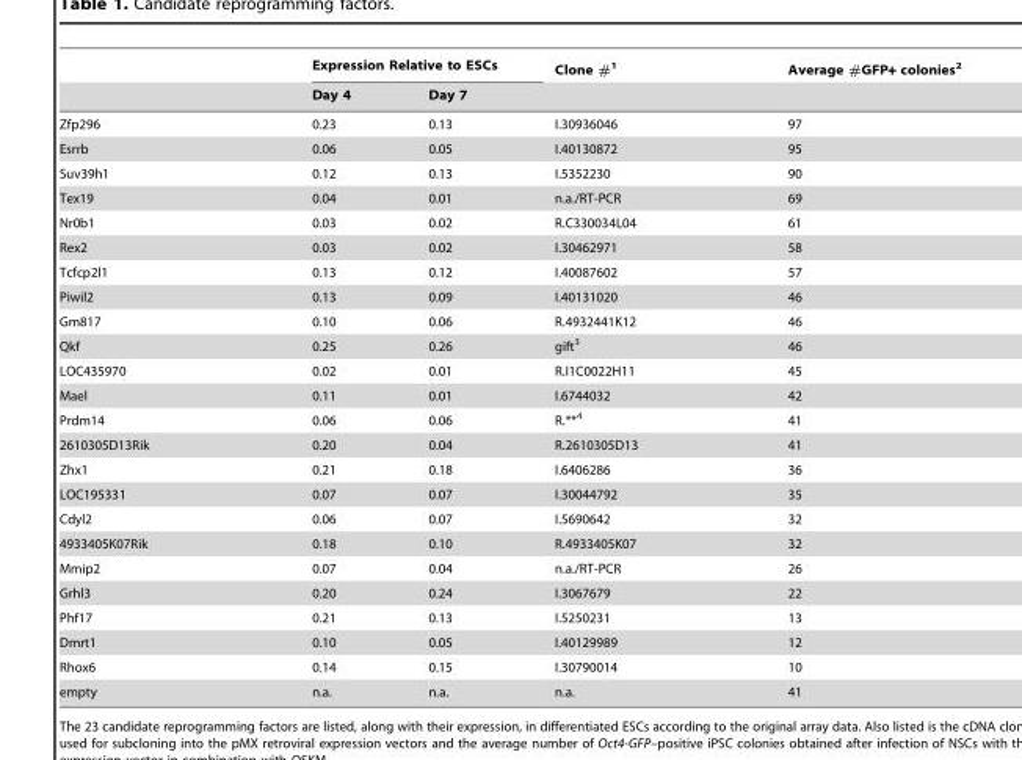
<table><thead><tr><td rowspan="2"></td><td colspan="2">Expression Relative to ESCs</td><td rowspan="2">Clone #<sup>1</sup></td><td rowspan="2">Average #GFP+ colonies<sup>2</sup></td></tr><tr><td>Day 4</td><td>Day 7</td></tr></thead><tbody><tr><td>Zfp296</td><td>0.23</td><td>0.13</td><td>I.30936046</td><td>97</td></tr><tr><td>Esrrb</td><td>0.06</td><td>0.05</td><td>I.40130872</td><td>95</td></tr><tr><td>Suv39h1</td><td>0.12</td><td>0.13</td><td>I.5352230</td><td>90</td></tr><tr><td>Tex19</td><td>0.04</td><td>0.01</td><td>n.a./RT-PCR</td><td>69</td></tr><tr><td>Nr0b1</td><td>0.03</td><td>0.02</td><td>R.C330034L04</td><td>61</td></tr><tr><td>Rex2</td><td>0.03</td><td>0.02</td><td>I.30462971</td><td>58</td></tr><tr><td>Tcfcp2l1</td><td>0.13</td><td>0.12</td><td>I.40087602</td><td>57</td></tr><tr><td>Piwil2</td><td>0.13</td><td>0.09</td><td>I.40131020</td><td>46</td></tr><tr><td>Gm817</td><td>0.10</td><td>0.06</td><td>R.4932441K12</td><td>46</td></tr><tr><td>Qkf</td><td>0.25</td><td>0.26</td><td>gift<sup>3</sup></td><td>46</td></tr><tr><td>LOC435970</td><td>0.02</td><td>0.01</td><td>R.I1C0022H11</td><td>45</td></tr><tr><td>Mael</td><td>0.11</td><td>0.01</td><td>I.6744032</td><td>42</td></tr><tr><td>Prdm14</td><td>0.06</td><td>0.06</td><td>R.**<sup>4</sup></td><td>41</td></tr><tr><td>2610305D13Rik</td><td>0.20</td><td>0.04</td><td>R.2610305D13</td><td>41</td></tr><tr><td>Zhx1</td><td>0.21</td><td>0.18</td><td>I.6406286</td><td>36</td></tr><tr><td>LOC195331</td><td>0.07</td><td>0.07</td><td>I.30044792</td><td>35</td></tr><tr><td>Cdyl2</td><td>0.06</td><td>0.07</td><td>I.5690642</td><td>32</td></tr><tr><td>4933405K07Rik</td><td>0.18</td><td>0.10</td><td>R.4933405K07</td><td>32</td></tr><tr><td>Mmip2</td><td>0.07</td><td>0.04</td><td>n.a./RT-PCR</td><td>26</td></tr><tr><td>Grhl3</td><td>0.20</td><td>0.24</td><td>I.3067679</td><td>22</td></tr><tr><td>Phf17</td><td>0.21</td><td>0.13</td><td>I.5250231</td><td>13</td></tr><tr><td>Dmrt1</td><td>0.10</td><td>0.05</td><td>I.40129989</td><td>12</td></tr><tr><td>Rhox6</td><td>0.14</td><td>0.15</td><td>I.30790014</td><td>10</td></tr><tr><td>empty</td><td>n.a.</td><td>n.a.</td><td>n.a.</td><td>41</td></tr></tbody></table>